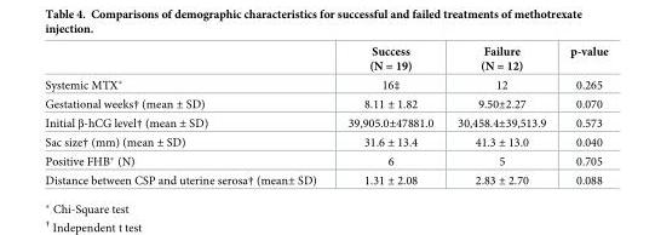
<table><thead><tr><td></td><td>Success (N = 19)</td><td>Failure (N = 12)</td><td>p-value</td></tr></thead><tbody><tr><td>Systemic MTX*</td><td>16‡</td><td>12</td><td>0.265</td></tr><tr><td>Gestational weeks† (mean ± SD)</td><td>8.11 ± 1.82</td><td>9.50±2.27</td><td>0.070</td></tr><tr><td>Initial β-hCG level† (mean ± SD)</td><td>39,905.0±47881.0</td><td>30,458.4±39,513.9</td><td>0.573</td></tr><tr><td>Sac size† (mm) (mean ± SD)</td><td>31.6 ± 13.4</td><td>41.3 ± 13.0</td><td>0.040</td></tr><tr><td>Positive FHB* (N)</td><td>6</td><td>5</td><td>0.705</td></tr><tr><td>Distance between CSP and uterine serosa† (mean± SD)</td><td>1.31 ± 2.08</td><td>2.83 ± 2.70</td><td>0.088</td></tr></tbody></table>